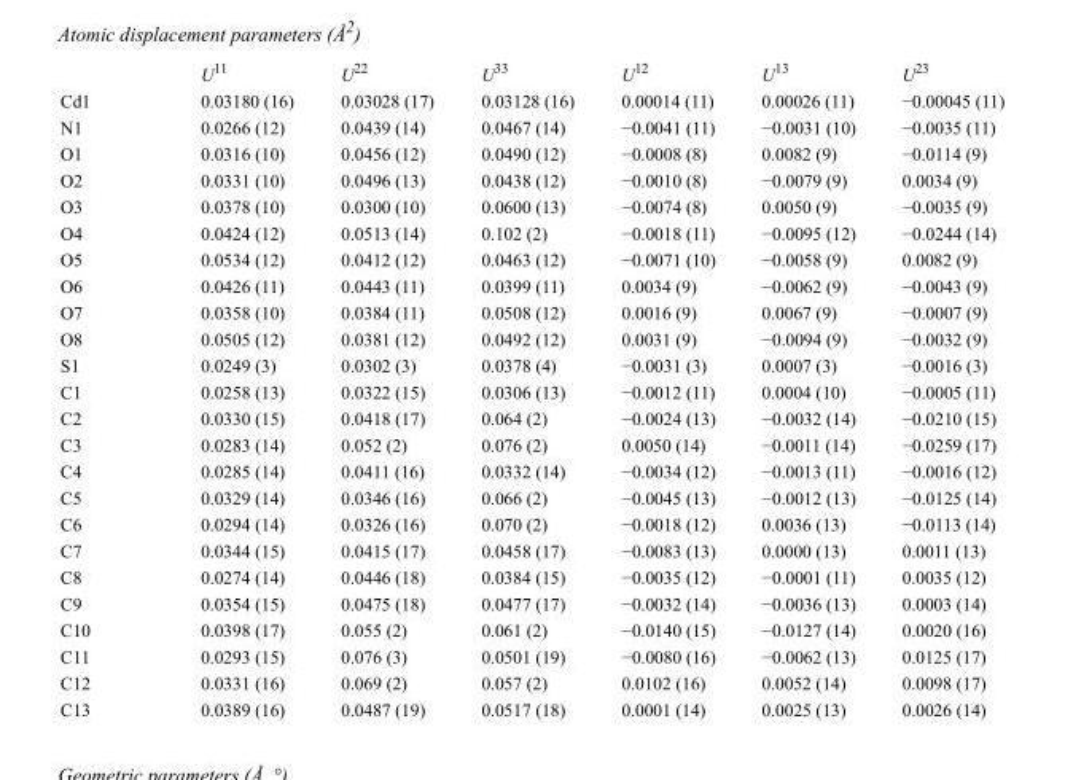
<table><thead><tr><td></td><td>U<sup>11</sup></td><td>U<sup>22</sup></td><td>U<sup>33</sup></td><td>U<sup>12</sup></td><td>U<sup>13</sup></td><td>U<sup>23</sup></td></tr></thead><tbody><tr><td>Cd1</td><td>0.03180 (16)</td><td>0.03028 (17)</td><td>0.03128 (16)</td><td>0.00014 (11)</td><td>0.00026 (11)</td><td>−0.00045 (11)</td></tr><tr><td>N1</td><td>0.0266 (12)</td><td>0.0439 (14)</td><td>0.0467 (14)</td><td>−0.0041 (11)</td><td>−0.0031 (10)</td><td>−0.0035 (11)</td></tr><tr><td>O1</td><td>0.0316 (10)</td><td>0.0456 (12)</td><td>0.0490 (12)</td><td>−0.0008 (8)</td><td>0.0082 (9)</td><td>−0.0114 (9)</td></tr><tr><td>O2</td><td>0.0331 (10)</td><td>0.0496 (13)</td><td>0.0438 (12)</td><td>−0.0010 (8)</td><td>−0.0079 (9)</td><td>0.0034 (9)</td></tr><tr><td>O3</td><td>0.0378 (10)</td><td>0.0300 (10)</td><td>0.0600 (13)</td><td>−0.0074 (8)</td><td>0.0050 (9)</td><td>−0.0035 (9)</td></tr><tr><td>O4</td><td>0.0424 (12)</td><td>0.0513 (14)</td><td>0.102 (2)</td><td>−0.0018 (11)</td><td>−0.0095 (12)</td><td>−0.0244 (14)</td></tr><tr><td>O5</td><td>0.0534 (12)</td><td>0.0412 (12)</td><td>0.0463 (12)</td><td>−0.0071 (10)</td><td>−0.0058 (9)</td><td>0.0082 (9)</td></tr><tr><td>O6</td><td>0.0426 (11)</td><td>0.0443 (11)</td><td>0.0399 (11)</td><td>0.0034 (9)</td><td>−0.0062 (9)</td><td>−0.0043 (9)</td></tr><tr><td>O7</td><td>0.0358 (10)</td><td>0.0384 (11)</td><td>0.0508 (12)</td><td>0.0016 (9)</td><td>0.0067 (9)</td><td>−0.0007 (9)</td></tr><tr><td>O8</td><td>0.0505 (12)</td><td>0.0381 (12)</td><td>0.0492 (12)</td><td>0.0031 (9)</td><td>−0.0094 (9)</td><td>−0.0032 (9)</td></tr><tr><td>S1</td><td>0.0249 (3)</td><td>0.0302 (3)</td><td>0.0378 (4)</td><td>−0.0031 (3)</td><td>0.0007 (3)</td><td>−0.0016 (3)</td></tr><tr><td>C1</td><td>0.0258 (13)</td><td>0.0322 (15)</td><td>0.0306 (13)</td><td>−0.0012 (11)</td><td>0.0004 (10)</td><td>−0.0005 (11)</td></tr><tr><td>C2</td><td>0.0330 (15)</td><td>0.0418 (17)</td><td>0.064 (2)</td><td>−0.0024 (13)</td><td>−0.0032 (14)</td><td>−0.0210 (15)</td></tr><tr><td>C3</td><td>0.0283 (14)</td><td>0.052 (2)</td><td>0.076 (2)</td><td>0.0050 (14)</td><td>−0.0011 (14)</td><td>−0.0259 (17)</td></tr><tr><td>C4</td><td>0.0285 (14)</td><td>0.0411 (16)</td><td>0.0332 (14)</td><td>−0.0034 (12)</td><td>−0.0013 (11)</td><td>−0.0016 (12)</td></tr><tr><td>C5</td><td>0.0329 (14)</td><td>0.0346 (16)</td><td>0.066 (2)</td><td>−0.0045 (13)</td><td>−0.0012 (13)</td><td>−0.0125 (14)</td></tr><tr><td>C6</td><td>0.0294 (14)</td><td>0.0326 (16)</td><td>0.070 (2)</td><td>−0.0018 (12)</td><td>0.0036 (13)</td><td>−0.0113 (14)</td></tr><tr><td>C7</td><td>0.0344 (15)</td><td>0.0415 (17)</td><td>0.0458 (17)</td><td>−0.0083 (13)</td><td>0.0000 (13)</td><td>0.0011 (13)</td></tr><tr><td>C8</td><td>0.0274 (14)</td><td>0.0446 (18)</td><td>0.0384 (15)</td><td>−0.0035 (12)</td><td>−0.0001 (11)</td><td>0.0035 (12)</td></tr><tr><td>C9</td><td>0.0354 (15)</td><td>0.0475 (18)</td><td>0.0477 (17)</td><td>−0.0032 (14)</td><td>−0.0036 (13)</td><td>0.0003 (14)</td></tr><tr><td>C10</td><td>0.0398 (17)</td><td>0.055 (2)</td><td>0.061 (2)</td><td>−0.0140 (15)</td><td>−0.0127 (14)</td><td>0.0020 (16)</td></tr><tr><td>C11</td><td>0.0293 (15)</td><td>0.076 (3)</td><td>0.0501 (19)</td><td>−0.0080 (16)</td><td>−0.0062 (13)</td><td>0.0125 (17)</td></tr><tr><td>C12</td><td>0.0331 (16)</td><td>0.069 (2)</td><td>0.057 (2)</td><td>0.0102 (16)</td><td>0.0052 (14)</td><td>0.0098 (17)</td></tr><tr><td>C13</td><td>0.0389 (16)</td><td>0.0487 (19)</td><td>0.0517 (18)</td><td>0.0001 (14)</td><td>0.0025 (13)</td><td>0.0026 (14)</td></tr></tbody></table>